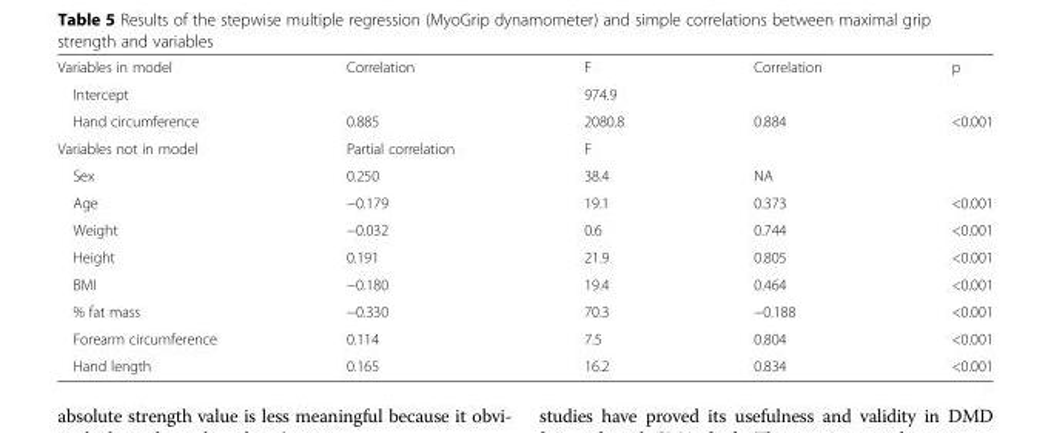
<table><tbody><tr><td>Variables in model</td><td>Correlation</td><td>F</td><td>Correlation</td><td>p</td></tr><tr><td>Intercept</td><td></td><td>974.9</td><td></td><td></td></tr><tr><td>Hand circumference</td><td>0.885</td><td>2080.8</td><td>0.884</td><td>&lt;0.001</td></tr><tr><td>Variables not in model</td><td>Partial correlation</td><td>F</td><td></td><td></td></tr><tr><td>Sex</td><td>0.250</td><td>38.4</td><td>NA</td><td></td></tr><tr><td>Age</td><td>−0.179</td><td>19.1</td><td>0.373</td><td>&lt;0.001</td></tr><tr><td>Weight</td><td>−0.032</td><td>0.6</td><td>0.744</td><td>&lt;0.001</td></tr><tr><td>Height</td><td>0.191</td><td>21.9</td><td>0.805</td><td>&lt;0.001</td></tr><tr><td>BMI</td><td>−0.180</td><td>19.4</td><td>0.464</td><td>&lt;0.001</td></tr><tr><td>% fat mass</td><td>−0.330</td><td>70.3</td><td>−0.188</td><td>&lt;0.001</td></tr><tr><td>Forearm circumference</td><td>0.114</td><td>7.5</td><td>0.804</td><td>&lt;0.001</td></tr><tr><td>Hand length</td><td>0.165</td><td>16.2</td><td>0.834</td><td>&lt;0.001</td></tr></tbody></table>